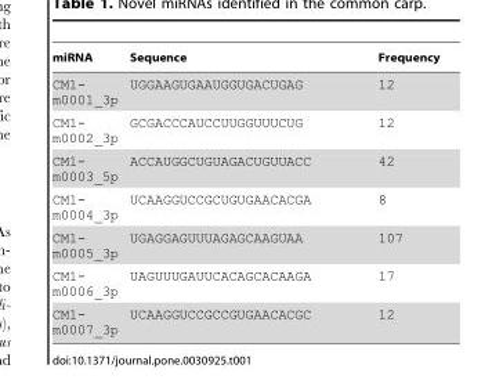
<table><thead><tr><td>miRNA</td><td>Sequence</td><td>Frequency</td></tr></thead><tbody><tr><td>CM1- m0001_3p</td><td>UGGAAGUGAAUGGUGACUGAG</td><td>12</td></tr><tr><td>CM1- m0002_3p</td><td>GCGACCCAUCCUUGGUUUCUG</td><td>12</td></tr><tr><td>CM1- m0003_5p</td><td>ACCAUGGCUGUAGACUGUUACC</td><td>42</td></tr><tr><td>CM1- m0004_3p</td><td>UCAAGGUCCGCUGUGAACACGA</td><td>8</td></tr><tr><td>CM1- m0005_3p</td><td>UGAGGAGUUUAGAGCAAGUAA</td><td>107</td></tr><tr><td>CM1- m0006_3p</td><td>UAGUUUGAUUCACAGCACAAGA</td><td>17</td></tr><tr><td>CM1- m0007_3p</td><td>UCAAGGUCCGCCGUGAACACGC</td><td>12</td></tr></tbody></table>